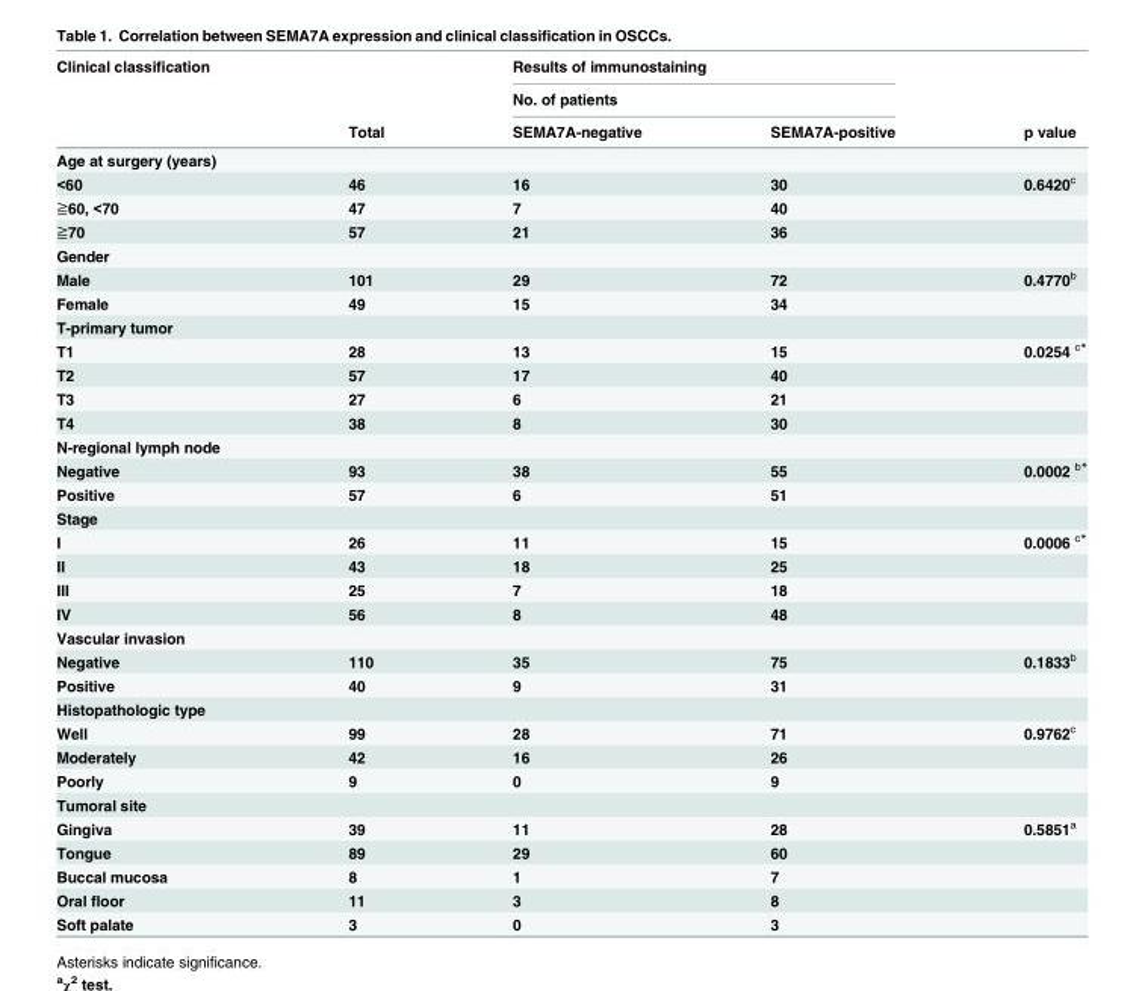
<table><thead><tr><td rowspan="3">Clinical classification</td><td rowspan="3">Total</td><td rowspan="2" colspan="2">Results of immunostaining No. of patients</td><td rowspan="3">p value</td></tr><tr></tr><tr><td>SEMA7A-negative</td><td>SEMA7A-positive</td></tr></thead><tbody><tr><td colspan="5">Age at surgery (years)</td></tr><tr><td>&lt;60</td><td>46</td><td>16</td><td>30</td><td>0.6420<sup>c</sup></td></tr><tr><td>≧60, &lt;70</td><td>47</td><td>7</td><td>40</td><td></td></tr><tr><td>≧70</td><td>57</td><td>21</td><td>36</td><td></td></tr><tr><td colspan="5">Gender</td></tr><tr><td>Male</td><td>101</td><td>29</td><td>72</td><td>0.4770<sup>b</sup></td></tr><tr><td>Female</td><td>49</td><td>15</td><td>34</td><td></td></tr><tr><td colspan="5">T-primary tumor</td></tr><tr><td>T1</td><td>28</td><td>13</td><td>15</td><td>0.0254 <sup>c*</sup></td></tr><tr><td>T2</td><td>57</td><td>17</td><td>40</td><td></td></tr><tr><td>T3</td><td>27</td><td>6</td><td>21</td><td></td></tr><tr><td>T4</td><td>38</td><td>8</td><td>30</td><td></td></tr><tr><td colspan="5">N-regional lymph node</td></tr><tr><td>Negative</td><td>93</td><td>38</td><td>55</td><td>0.0002 <sup>b*</sup></td></tr><tr><td>Positive</td><td>57</td><td>6</td><td>51</td><td></td></tr><tr><td colspan="5">Stage</td></tr><tr><td>I</td><td>26</td><td>11</td><td>15</td><td>0.0006 <sup>c*</sup></td></tr><tr><td>II</td><td>43</td><td>18</td><td>25</td><td></td></tr><tr><td>III</td><td>25</td><td>7</td><td>18</td><td></td></tr><tr><td>IV</td><td>56</td><td>8</td><td>48</td><td></td></tr><tr><td colspan="5">Vascular invasion</td></tr><tr><td>Negative</td><td>110</td><td>35</td><td>75</td><td>0.1833<sup>b</sup></td></tr><tr><td>Positive</td><td>40</td><td>9</td><td>31</td><td></td></tr><tr><td colspan="5">Histopathologic type</td></tr><tr><td>Well</td><td>99</td><td>28</td><td>71</td><td>0.9762<sup>c</sup></td></tr><tr><td>Moderately</td><td>42</td><td>16</td><td>26</td><td></td></tr><tr><td>Poorly</td><td>9</td><td>0</td><td>9</td><td></td></tr><tr><td colspan="5">Tumoral site</td></tr><tr><td>Gingiva</td><td>39</td><td>11</td><td>28</td><td>0.5851<sup>a</sup></td></tr><tr><td>Tongue</td><td>89</td><td>29</td><td>60</td><td></td></tr><tr><td>Buccal mucosa</td><td>8</td><td>1</td><td>7</td><td></td></tr><tr><td>Oral floor</td><td>11</td><td>3</td><td>8</td><td></td></tr><tr><td>Soft palate</td><td>3</td><td>0</td><td>3</td><td></td></tr></tbody></table>